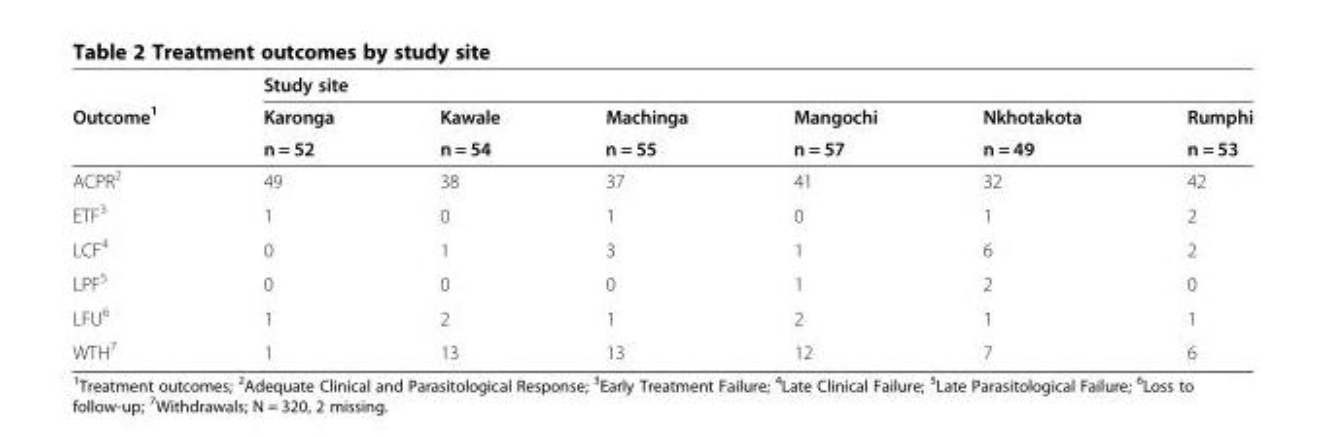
<table><thead><tr><td rowspan="3">Outcome<sup>1</sup></td><td colspan="6">Study site</td></tr><tr><td rowspan="2">Karonga n = 52</td><td rowspan="2">Kawale n = 54</td><td rowspan="2">Machinga n = 55</td><td rowspan="2">Mangochi n = 57</td><td rowspan="2">Nkhotakota n = 49</td><td rowspan="2">Rumphi n = 53</td></tr><tr></tr></thead><tbody><tr><td>ACPR<sup>2</sup></td><td>49</td><td>38</td><td>37</td><td>41</td><td>32</td><td>42</td></tr><tr><td>ETF<sup>3</sup></td><td>1</td><td>0</td><td>1</td><td>0</td><td>1</td><td>2</td></tr><tr><td>LCF<sup>4</sup></td><td>0</td><td>1</td><td>3</td><td>1</td><td>6</td><td>2</td></tr><tr><td>LPF<sup>5</sup></td><td>0</td><td>0</td><td>0</td><td>1</td><td>2</td><td>0</td></tr><tr><td>LFU<sup>6</sup></td><td>1</td><td>2</td><td>1</td><td>2</td><td>1</td><td>1</td></tr><tr><td>WTH<sup>7</sup></td><td>1</td><td>13</td><td>13</td><td>12</td><td>7</td><td>6</td></tr></tbody></table>